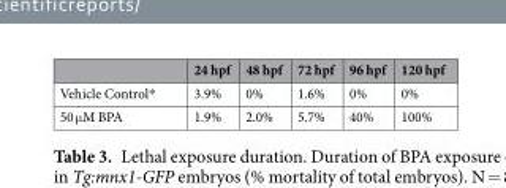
<table><thead><tr><td></td><td>24 hpf</td><td>48 hpf</td><td>72 hpf</td><td>96 hpf</td><td>120 hpf</td></tr></thead><tbody><tr><td>Vehicle Control*</td><td>3.9%</td><td>0%</td><td>1.6%</td><td>0%</td><td>0%</td></tr><tr><td>50 μM BPA</td><td>1.9%</td><td>2.0%</td><td>5.7%</td><td>40%</td><td>100%</td></tr></tbody></table>